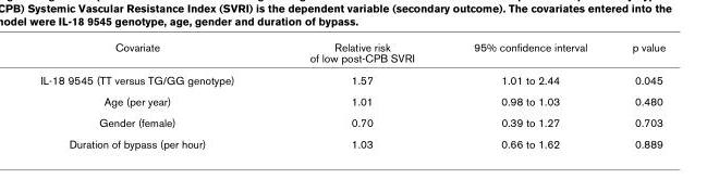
<table><thead><tr><td>Covariate</td><td>Relative risk of low post-CPB SVRI</td><td>95% confidence interval</td><td>p value</td></tr></thead><tbody><tr><td>IL-18 9545 (TT versus TG/GG genotype)</td><td>1.57</td><td>1.01 to 2.44</td><td>0.045</td></tr><tr><td>Age (per year)</td><td>1.01</td><td>0.98 to 1.03</td><td>0.480</td></tr><tr><td>Gender (female)</td><td>0.70</td><td>0.39 to 1.27</td><td>0.703</td></tr><tr><td>Duration of bypass (per hour)</td><td>1.03</td><td>0.66 to 1.62</td><td>0.889</td></tr></tbody></table>